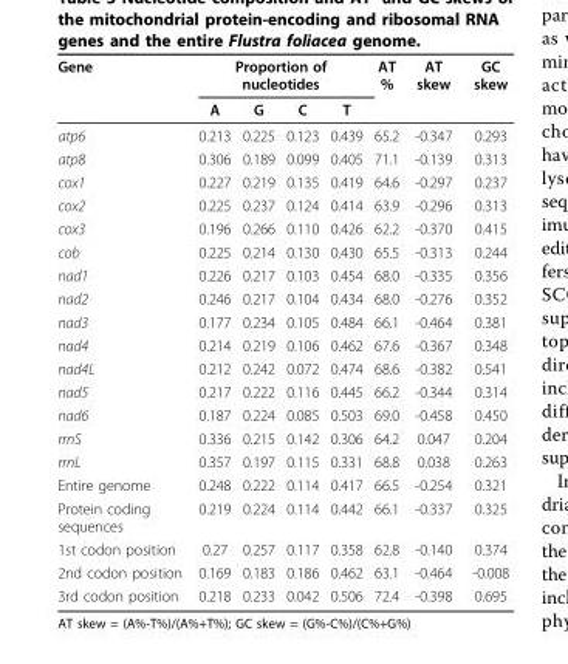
<table><thead><tr><td rowspan="2">Gene</td><td colspan="4">Proportion of nucleotides</td><td rowspan="2">AT %</td><td rowspan="2">AT skew</td><td rowspan="2">GC skew</td></tr><tr><td>A</td><td>G</td><td>C</td><td>T</td></tr></thead><tbody><tr><td>atp6</td><td>0.213</td><td>0.225</td><td>0.123</td><td>0.439</td><td>65.2</td><td>-0.347</td><td>0.293</td></tr><tr><td>atp8</td><td>0.306</td><td>0.189</td><td>0.099</td><td>0.405</td><td>71.1</td><td>-0.139</td><td>0.313</td></tr><tr><td>cox1</td><td>0.227</td><td>0.219</td><td>0.135</td><td>0.419</td><td>64.6</td><td>-0.297</td><td>0.237</td></tr><tr><td>cox2</td><td>0.225</td><td>0.237</td><td>0.124</td><td>0.414</td><td>63.9</td><td>-0.296</td><td>0.313</td></tr><tr><td>cox3</td><td>0.196</td><td>0.266</td><td>0.110</td><td>0.426</td><td>62.2</td><td>-0.370</td><td>0.415</td></tr><tr><td>cob</td><td>0.225</td><td>0.214</td><td>0.130</td><td>0.430</td><td>65.5</td><td>-0.313</td><td>0.244</td></tr><tr><td>nad1</td><td>0.226</td><td>0.217</td><td>0.103</td><td>0.454</td><td>68.0</td><td>-0.335</td><td>0.356</td></tr><tr><td>nad2</td><td>0.246</td><td>0.217</td><td>0.104</td><td>0.434</td><td>68.0</td><td>-0.276</td><td>0.352</td></tr><tr><td>nad3</td><td>0.177</td><td>0.234</td><td>0.105</td><td>0.484</td><td>66.1</td><td>-0.464</td><td>0.381</td></tr><tr><td>nad4</td><td>0.214</td><td>0.219</td><td>0.106</td><td>0.462</td><td>67.6</td><td>-0.367</td><td>0.348</td></tr><tr><td>nad4L</td><td>0.212</td><td>0.242</td><td>0.072</td><td>0.474</td><td>68.6</td><td>-0.382</td><td>0.541</td></tr><tr><td>nad5</td><td>0.217</td><td>0.222</td><td>0.116</td><td>0.445</td><td>66.2</td><td>-0.344</td><td>0.314</td></tr><tr><td>nad6</td><td>0.187</td><td>0.224</td><td>0.085</td><td>0.503</td><td>69.0</td><td>-0.458</td><td>0.450</td></tr><tr><td>rrnS</td><td>0.336</td><td>0.215</td><td>0.142</td><td>0.306</td><td>64.2</td><td>0.047</td><td>0.204</td></tr><tr><td>rrnL</td><td>0.357</td><td>0.197</td><td>0.115</td><td>0.331</td><td>68.8</td><td>0.038</td><td>0.263</td></tr><tr><td>Entire genome</td><td>0.248</td><td>0.222</td><td>0.114</td><td>0.417</td><td>66.5</td><td>-0.254</td><td>0.321</td></tr><tr><td>Protein coding sequences</td><td>0.219</td><td>0.224</td><td>0.114</td><td>0.442</td><td>66.1</td><td>-0.337</td><td>0.325</td></tr><tr><td>1st codon position</td><td>0.27</td><td>0.257</td><td>0.117</td><td>0.358</td><td>62.8</td><td>-0.140</td><td>0.374</td></tr><tr><td>2nd codon position</td><td>0.169</td><td>0.183</td><td>0.186</td><td>0.462</td><td>63.1</td><td>-0.464</td><td>-0.008</td></tr><tr><td>3rd codon position</td><td>0.218</td><td>0.233</td><td>0.042</td><td>0.506</td><td>72.4</td><td>-0.398</td><td>0.695</td></tr></tbody></table>